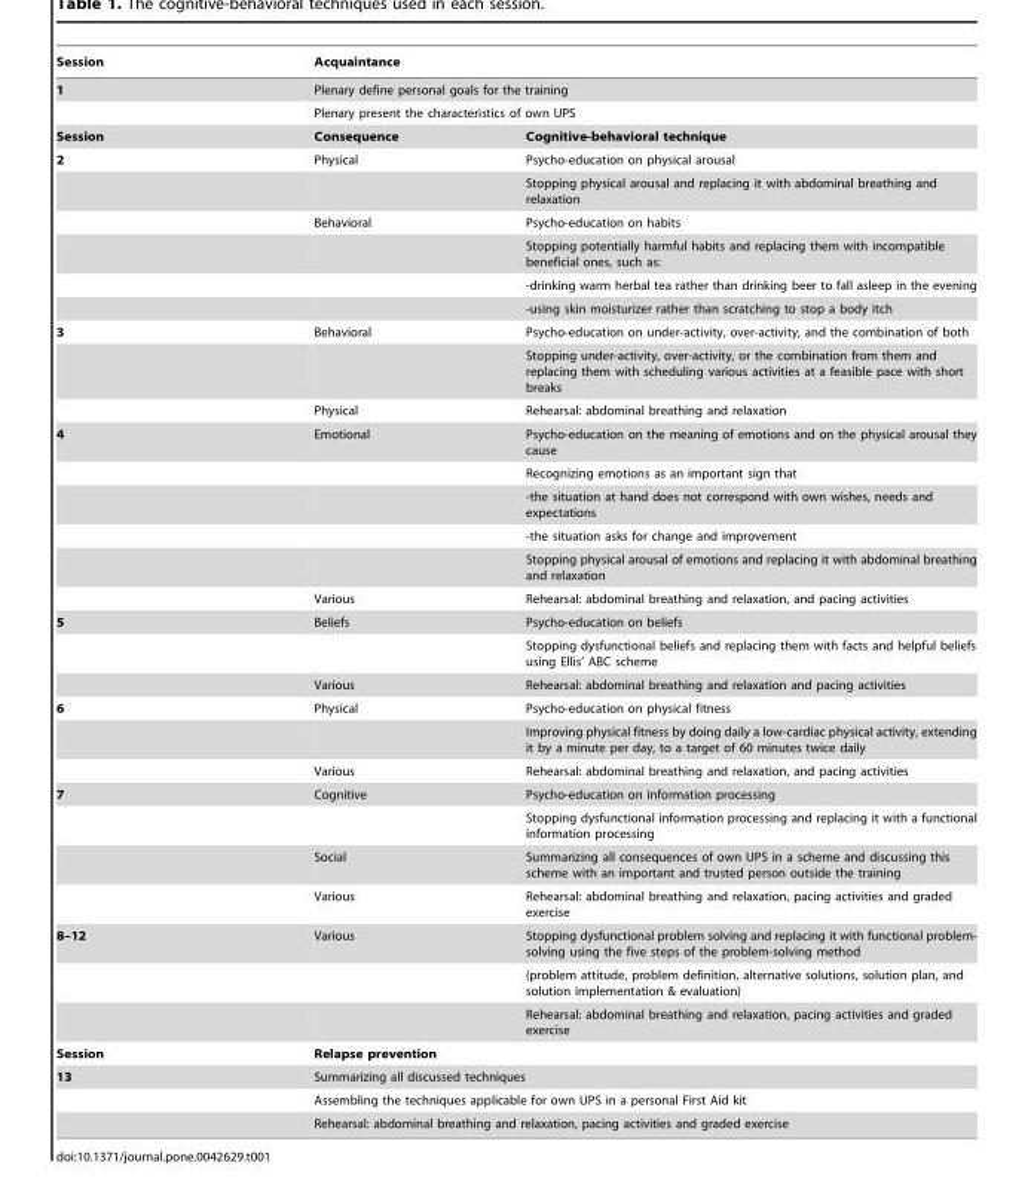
<table><thead><tr><td rowspan="4">Session 1 Session</td><td rowspan="3" colspan="2">Acquaintance Plenary define personal goals for the training Plenary present the characteristics of own UPS</td></tr><tr></tr><tr></tr><tr><td>Consequence</td><td>Cognitive-behavioral technique</td></tr></thead><tbody><tr><td rowspan="6">2</td><td>Physical</td><td>Psycho-education on physical arousal</td></tr><tr><td></td><td>Stopping physical arousal and replacing it with abdominal breathing and relaxation</td></tr><tr><td>Behavioral</td><td>Psycho-education on habits</td></tr><tr><td></td><td>Stopping potentially harmful habits and replacing them with incompatible beneficial ones, such as:</td></tr><tr><td></td><td>-drinking warm herbal tea rather than drinking beer to fall asleep in the evening</td></tr><tr><td></td><td>-using skin moisturizer rather than scratching to stop a body itch</td></tr><tr><td rowspan="3">3</td><td>Behavioral</td><td>Psycho-education on under-activity, over-activity, and the combination of both</td></tr><tr><td></td><td>Stopping under-activity, over-activity, or the combination from them and replacing them with scheduling various activities at a feasible pace with short breaks</td></tr><tr><td>Physical</td><td>Rehearsal: abdominal breathing and relaxation</td></tr><tr><td rowspan="6">4</td><td>Emotional</td><td>Psycho-education on the meaning of emotions and on the physical arousal they cause</td></tr><tr><td></td><td>Recognizing emotions as an important sign that</td></tr><tr><td></td><td>-the situation at hand does not correspond with own wishes, needs and expectations</td></tr><tr><td></td><td>-the situation asks for change and improvement</td></tr><tr><td></td><td>Stopping physical arousal of emotions and replacing it with abdominal breathing and relaxation</td></tr><tr><td>Various</td><td>Rehearsal: abdominal breathing and relaxation, and pacing activities</td></tr><tr><td rowspan="3">5</td><td>Beliefs</td><td>Psycho-education on beliefs</td></tr><tr><td></td><td>Stopping dysfunctional beliefs and replacing them with facts and helpful beliefs using Ellis’ ABC scheme</td></tr><tr><td>Various</td><td>Rehearsal: abdominal breathing and relaxation and pacing activities</td></tr><tr><td rowspan="3">6</td><td>Physical</td><td>Psycho-education on physical fitness</td></tr><tr><td></td><td>Improving physical fitness by doing daily a low-cardiac physical activity, extending it by a minute per day, to a target of 60 minutes twice daily</td></tr><tr><td>Various</td><td>Rehearsal: abdominal breathing and relaxation, and pacing activities</td></tr><tr><td rowspan="4">7</td><td>Cognitive</td><td>Psycho-education on information processing</td></tr><tr><td></td><td>Stopping dysfunctional information processing and replacing it with a functional information processing</td></tr><tr><td>Social</td><td>Summarizing all consequences of own UPS in a scheme and discussing this scheme with an important and trusted person outside the training</td></tr><tr><td>Various</td><td>Rehearsal: abdominal breathing and relaxation, pacing activities and graded exercise</td></tr><tr><td rowspan="3">8–12</td><td>Various</td><td>Stopping dysfunctional problem solving and replacing it with functional problem- solving using the five steps of the problem-solving method</td></tr><tr><td></td><td>(problem attitude, problem definition, alternative solutions, solution plan, and solution implementation &amp; evaluation)</td></tr><tr><td></td><td>Rehearsal: abdominal breathing and relaxation, pacing activities and graded exercise</td></tr><tr><td>Session</td><td colspan="2">Relapse prevention</td></tr><tr><td rowspan="3">13</td><td colspan="2">Summarizing all discussed techniques</td></tr><tr><td colspan="2">Assembling the techniques applicable for own UPS in a personal First Aid kit</td></tr><tr><td colspan="2">Rehearsal: abdominal breathing and relaxation, pacing activities and graded exercise</td></tr></tbody></table>